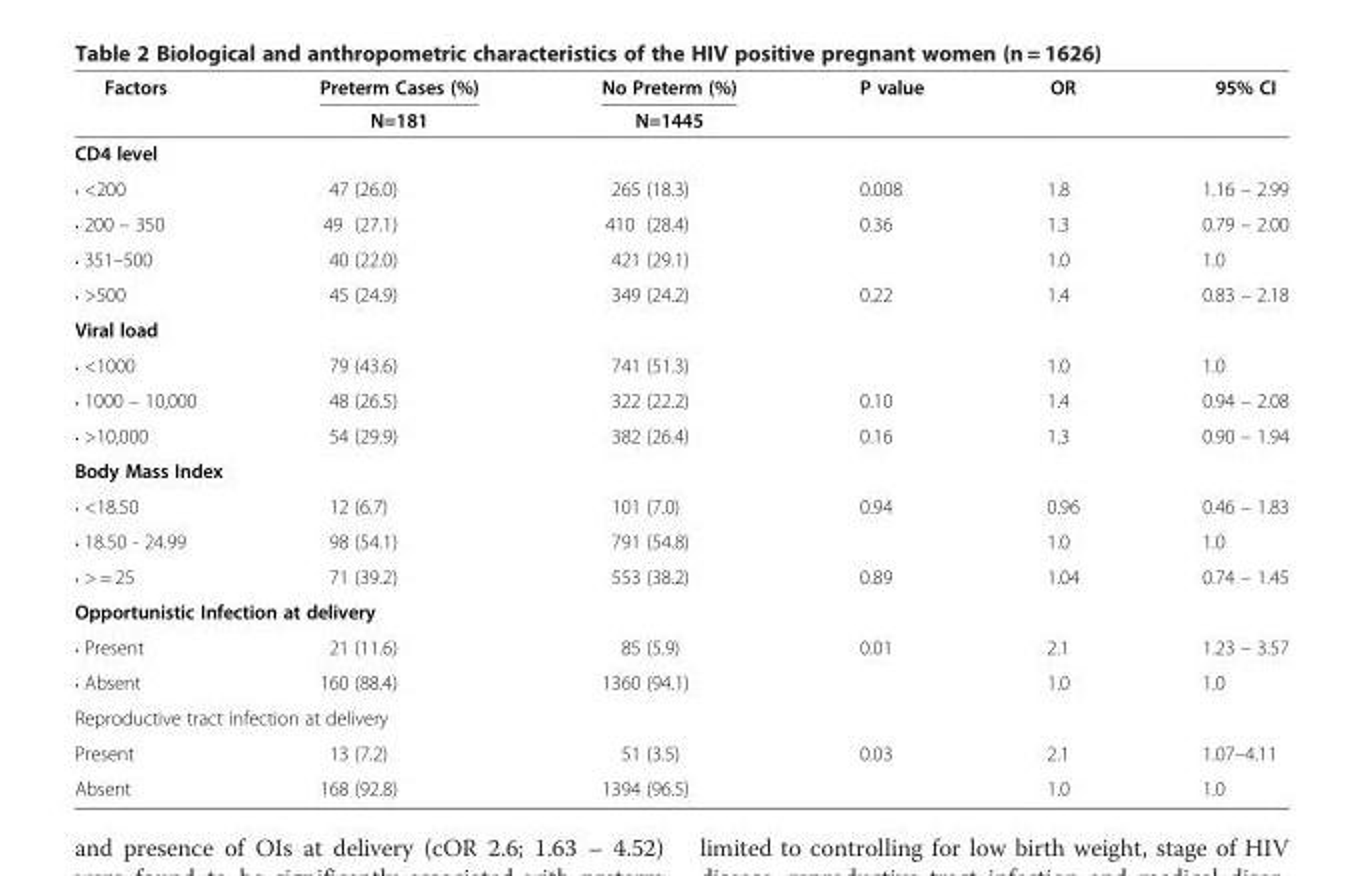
<table><thead><tr><td rowspan="2">Factors</td><td rowspan="2">Preterm Cases (%) N=181</td><td rowspan="2">No Preterm (%) N=1445</td><td rowspan="2">P value</td><td rowspan="2">OR</td><td rowspan="2">95% CI</td></tr><tr></tr></thead><tbody><tr><td colspan="6">CD4 level</td></tr><tr><td>• &lt;200</td><td>47 (26.0)</td><td>265 (18.3)</td><td>0.008</td><td>1.8</td><td>1.16 – 2.99</td></tr><tr><td>• 200 – 350</td><td>49 (27.1)</td><td>410 (28.4)</td><td>0.36</td><td>1.3</td><td>0.79 – 2.00</td></tr><tr><td>• 351–500</td><td>40 (22.0)</td><td>421 (29.1)</td><td></td><td>1.0</td><td>1.0</td></tr><tr><td>• &gt;500</td><td>45 (24.9)</td><td>349 (24.2)</td><td>0.22</td><td>1.4</td><td>0.83 – 2.18</td></tr><tr><td colspan="6">Viral load</td></tr><tr><td>• &lt;1000</td><td>79 (43.6)</td><td>741 (51.3)</td><td></td><td>1.0</td><td>1.0</td></tr><tr><td>• 1000 – 10,000</td><td>48 (26.5)</td><td>322 (22.2)</td><td>0.10</td><td>1.4</td><td>0.94 – 2.08</td></tr><tr><td>• &gt;10,000</td><td>54 (29.9)</td><td>382 (26.4)</td><td>0.16</td><td>1.3</td><td>0.90 – 1.94</td></tr><tr><td colspan="6">Body Mass Index</td></tr><tr><td>• &lt;18.50</td><td>12 (6.7)</td><td>101 (7.0)</td><td>0.94</td><td>0.96</td><td>0.46 – 1.83</td></tr><tr><td>• 18.50 - 24.99</td><td>98 (54.1)</td><td>791 (54.8)</td><td></td><td>1.0</td><td>1.0</td></tr><tr><td>• &gt; = 25</td><td>71 (39.2)</td><td>553 (38.2)</td><td>0.89</td><td>1.04</td><td>0.74 – 1.45</td></tr><tr><td colspan="6">Opportunistic Infection at delivery</td></tr><tr><td>• Present</td><td>21 (11.6)</td><td>85 (5.9)</td><td>0.01</td><td>2.1</td><td>1.23 – 3.57</td></tr><tr><td>• Absent</td><td>160 (88.4)</td><td>1360 (94.1)</td><td></td><td>1.0</td><td>1.0</td></tr><tr><td colspan="6">Reproductive tract infection at delivery</td></tr><tr><td>Present</td><td>13 (7.2)</td><td>51 (3.5)</td><td>0.03</td><td>2.1</td><td>1.07–4.11</td></tr><tr><td>Absent</td><td>168 (92.8)</td><td>1394 (96.5)</td><td></td><td>1.0</td><td>1.0</td></tr></tbody></table>